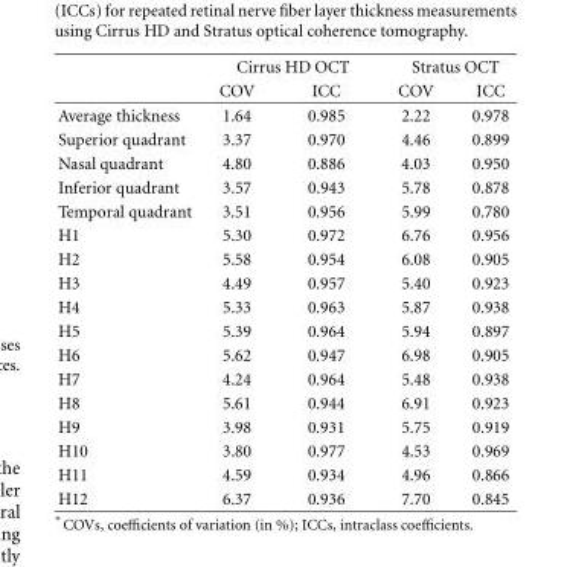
<table><thead><tr><td rowspan="2"></td><td colspan="2">Cirrus HD OCT</td><td colspan="2">Stratus OCT</td></tr><tr><td>COV</td><td>ICC</td><td>COV</td><td>ICC</td></tr></thead><tbody><tr><td>Average thickness</td><td>1.64</td><td>0.985</td><td>2.22</td><td>0.978</td></tr><tr><td>Superior quadrant</td><td>3.37</td><td>0.970</td><td>4.46</td><td>0.899</td></tr><tr><td>Nasal quadrant</td><td>4.80</td><td>0.886</td><td>4.03</td><td>0.950</td></tr><tr><td>Inferior quadrant</td><td>3.57</td><td>0.943</td><td>5.78</td><td>0.878</td></tr><tr><td>Temporal quadrant</td><td>3.51</td><td>0.956</td><td>5.99</td><td>0.780</td></tr><tr><td>H1</td><td>5.30</td><td>0.972</td><td>6.76</td><td>0.956</td></tr><tr><td>H2</td><td>5.58</td><td>0.954</td><td>6.08</td><td>0.905</td></tr><tr><td>H3</td><td>4.49</td><td>0.957</td><td>5.40</td><td>0.923</td></tr><tr><td>H4</td><td>5.33</td><td>0.963</td><td>5.87</td><td>0.938</td></tr><tr><td>H5</td><td>5.39</td><td>0.964</td><td>5.94</td><td>0.897</td></tr><tr><td>H6</td><td>5.62</td><td>0.947</td><td>6.98</td><td>0.905</td></tr><tr><td>H7</td><td>4.24</td><td>0.964</td><td>5.48</td><td>0.938</td></tr><tr><td>H8</td><td>5.61</td><td>0.944</td><td>6.91</td><td>0.923</td></tr><tr><td>H9</td><td>3.98</td><td>0.931</td><td>5.75</td><td>0.919</td></tr><tr><td>H10</td><td>3.80</td><td>0.977</td><td>4.53</td><td>0.969</td></tr><tr><td>H11</td><td>4.59</td><td>0.934</td><td>4.96</td><td>0.866</td></tr><tr><td>H12</td><td>6.37</td><td>0.936</td><td>7.70</td><td>0.845</td></tr></tbody></table>